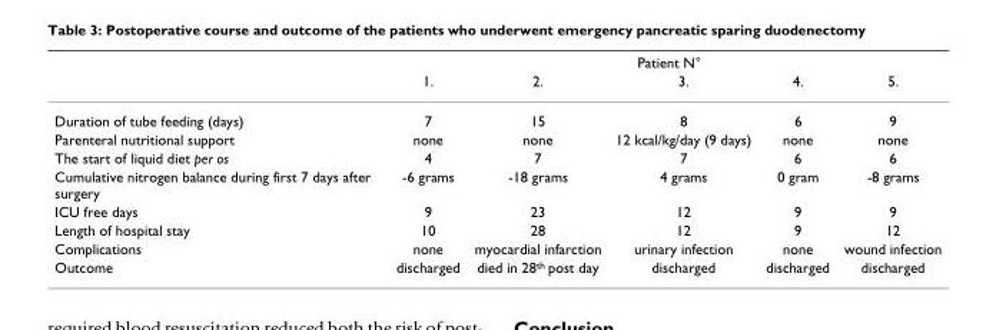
<table><thead><tr><td rowspan="2"></td><td colspan="5">Patient N°</td></tr><tr><td>1.</td><td>2.</td><td>3.</td><td>4.</td><td>5.</td></tr></thead><tbody><tr><td>Duration of tube feeding (days)</td><td>7</td><td>15</td><td>8</td><td>6</td><td>9</td></tr><tr><td>Parenteral nutritional support</td><td>none</td><td>none</td><td>12 kcal/kg/day (9 days)</td><td>none</td><td>none</td></tr><tr><td>The start of liquid diet per os</td><td>4</td><td>7</td><td>7</td><td>6</td><td>6</td></tr><tr><td>Cumulative nitrogen balance during first 7 days after surgery</td><td>-6 grams</td><td>-18 grams</td><td>4 grams</td><td>0 gram</td><td>-8 grams</td></tr><tr><td>ICU free days</td><td>9</td><td>23</td><td>12</td><td>9</td><td>9</td></tr><tr><td>Length of hospital stay</td><td>10</td><td>28</td><td>12</td><td>9</td><td>12</td></tr><tr><td>Complications</td><td>none</td><td>myocardial infarction</td><td>urinary infection</td><td>none</td><td>wound infection</td></tr><tr><td>Outcome</td><td>discharged</td><td>died in 28<sup>th</sup> post day</td><td>discharged</td><td>discharged</td><td>discharged</td></tr></tbody></table>